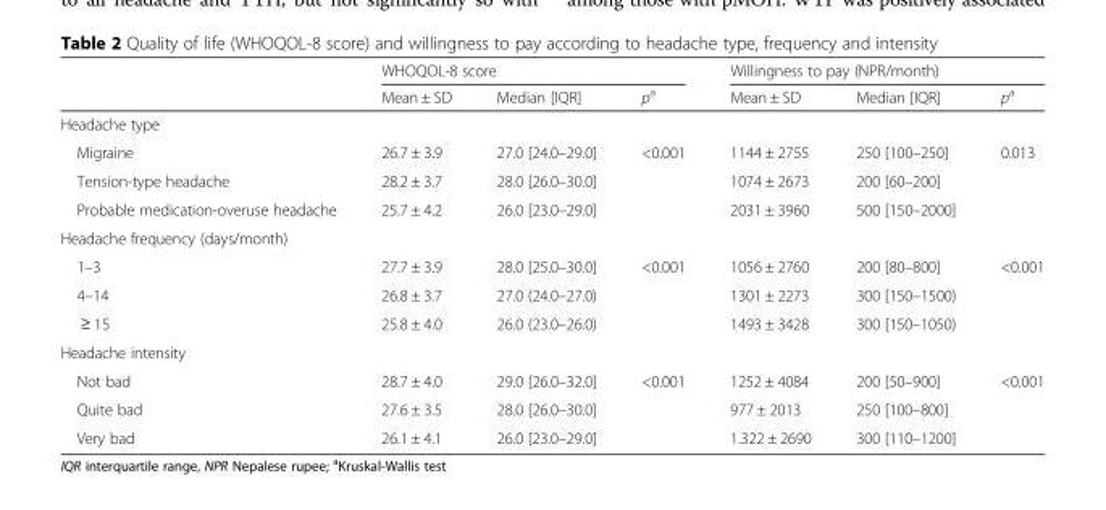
<table><thead><tr><td rowspan="2"></td><td colspan="3">WHOQOL-8 score</td><td colspan="3">Willingness to pay (NPR/month)</td></tr><tr><td>Mean ± SD</td><td>Median [IQR]</td><td>p<sup>a</sup></td><td>Mean ± SD</td><td>Median [IQR]</td><td>p<sup>a</sup></td></tr></thead><tbody><tr><td colspan="7">Headache type</td></tr><tr><td>Migraine</td><td>26.7 ± 3.9</td><td>27.0 [24.0–29.0]</td><td rowspan="3">&lt;0.001</td><td>1144 ± 2755</td><td>250 [100–250]</td><td rowspan="3">0.013</td></tr><tr><td>Tension-type headache</td><td>28.2 ± 3.7</td><td>28.0 [26.0–30.0]</td><td>1074 ± 2673</td><td>200 [60–200]</td></tr><tr><td>Probable medication-overuse headache</td><td>25.7 ± 4.2</td><td>26.0 [23.0–29.0]</td><td>2031 ± 3960</td><td>500 [150–2000]</td></tr><tr><td colspan="7">Headache frequency (days/month)</td></tr><tr><td>1–3</td><td>27.7 ± 3.9</td><td>28.0 [25.0–30.0]</td><td rowspan="3">&lt;0.001</td><td>1056 ± 2760</td><td>200 [80–800]</td><td rowspan="3">&lt;0.001</td></tr><tr><td>4–14</td><td>26.8 ± 3.7</td><td>27.0 (24.0–27.0)</td><td>1301 ± 2273</td><td>300 [150–1500)</td></tr><tr><td>≥ 15</td><td>25.8 ± 4.0</td><td>26.0 (23.0–26.0)</td><td>1493 ± 3428</td><td>300 [150–1050)</td></tr><tr><td colspan="7">Headache intensity</td></tr><tr><td>Not bad</td><td>28.7 ± 4.0</td><td>29.0 [26.0–32.0]</td><td rowspan="3">&lt;0.001</td><td>1252 ± 4084</td><td>200 [50–900]</td><td rowspan="3">&lt;0.001</td></tr><tr><td>Quite bad</td><td>27.6 ± 3.5</td><td>28.0 [26.0–30.0]</td><td>977 ± 2013</td><td>250 [100–800]</td></tr><tr><td>Very bad</td><td>26.1 ± 4.1</td><td>26.0 [23.0–29.0]</td><td>1.322 ± 2690</td><td>300 [110–1200]</td></tr></tbody></table>